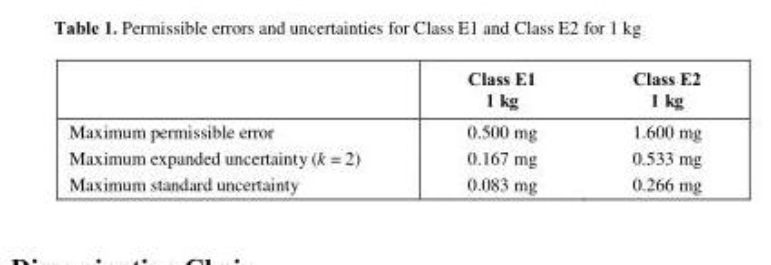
<table><thead><tr><td></td><td>Class E1 1 kg</td><td>Class E2 1 kg</td></tr></thead><tbody><tr><td>Maximum permissible error</td><td>0.500 mg</td><td>1.600 mg</td></tr><tr><td>Maximum expanded uncertainty (k = 2)</td><td>0.167 mg</td><td>0.533 mg</td></tr><tr><td>Maximum standard uncertainty</td><td>0.083 mg</td><td>0.266 mg</td></tr></tbody></table>